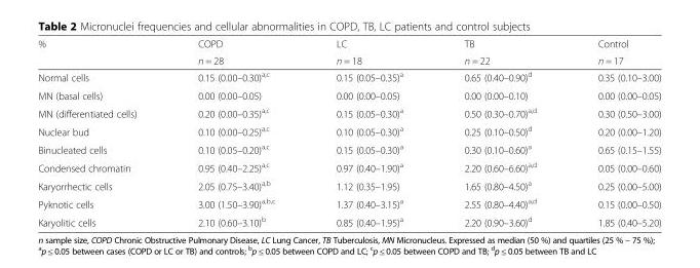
<table><thead><tr><td rowspan="2">%</td><td rowspan="2">COPD n = 28</td><td rowspan="2">LC n = 18</td><td rowspan="2">TB n = 22</td><td rowspan="2">Control n = 17</td></tr><tr></tr></thead><tbody><tr><td>Normal cells</td><td>0.15 (0.00–0.30)<sup>a,c</sup></td><td>0.15 (0.05–0.35)<sup>a</sup></td><td>0.65 (0.40–0.90)<sup>d</sup></td><td>0.35 (0.10–3.00)</td></tr><tr><td>MN (basal cells)</td><td>0.00 (0.00–0.05)</td><td>0.00 (0.00–0.05)</td><td>0.00 (0.00–0.10)</td><td>0.00 (0.00–0.05)</td></tr><tr><td>MN (differentiated cells)</td><td>0.20 (0.00–0.35)<sup>a,c</sup></td><td>0.15 (0.05–0.30)<sup>a</sup></td><td>0.50 (0.30–0.70)<sup>a,d</sup></td><td>0.30 (0.50–3.00)</td></tr><tr><td>Nuclear bud</td><td>0.10 (0.00–0.25)<sup>a,c</sup></td><td>0.10 (0.05–0.30)<sup>a</sup></td><td>0.25 (0.10–0.50)<sup>d</sup></td><td>0.20 (0.00–1.20)</td></tr><tr><td>Binucleated cells</td><td>0.10 (0.05–0.20)<sup>a,c</sup></td><td>0.15 (0.05–0.30)<sup>a</sup></td><td>0.30 (0.10–0.60)<sup>a</sup></td><td>0.65 (0.15–1.55)</td></tr><tr><td>Condensed chromatin</td><td>0.95 (0.40–2.25)<sup>a,c</sup></td><td>0.97 (0.40–1.90)<sup>a</sup></td><td>2.20 (0.60–6.60)<sup>a,d</sup></td><td>0.05 (0.00–0.60)</td></tr><tr><td>Karyorrhectic cells</td><td>2.05 (0.75–3.40)<sup>a,b</sup></td><td>1.12 (0.35–1.95)</td><td>1.65 (0.80–4.50)<sup>a</sup></td><td>0.25 (0.00–5.00)</td></tr><tr><td>Pyknotic cells</td><td>3.00 (1.50–3.90)<sup>a,b,c</sup></td><td>1.37 (0.40–3.15)<sup>a</sup></td><td>2.55 (0.80–4.40)<sup>a,d</sup></td><td>0.15 (0.00–0.50)</td></tr><tr><td>Karyolitic cells</td><td>2.10 (0.60–3.10)<sup>b</sup></td><td>0.85 (0.40–1.95)<sup>a</sup></td><td>2.20 (0.90–3.60)<sup>d</sup></td><td>1.85 (0.40–5.20)</td></tr></tbody></table>